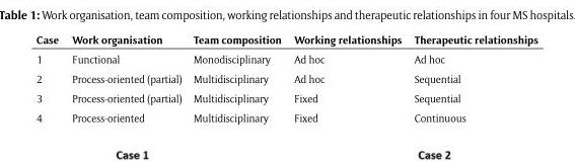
<table><thead><tr><td>Case</td><td>Work organisation</td><td>Team composition</td><td>Working relationships</td><td>Therapeutic relationships</td></tr></thead><tbody><tr><td>1</td><td>Functional</td><td>Monodisciplinary</td><td>Ad hoc</td><td>Ad hoc</td></tr><tr><td>2</td><td>Process-oriented (partial)</td><td>Multidisciplinary</td><td>Ad hoc</td><td>Sequential</td></tr><tr><td>3</td><td>Process-oriented (partial)</td><td>Multidisciplinary</td><td>Fixed</td><td>Sequential</td></tr><tr><td>4</td><td>Process-oriented</td><td>Multidisciplinary</td><td>Fixed</td><td>Continuous</td></tr></tbody></table>